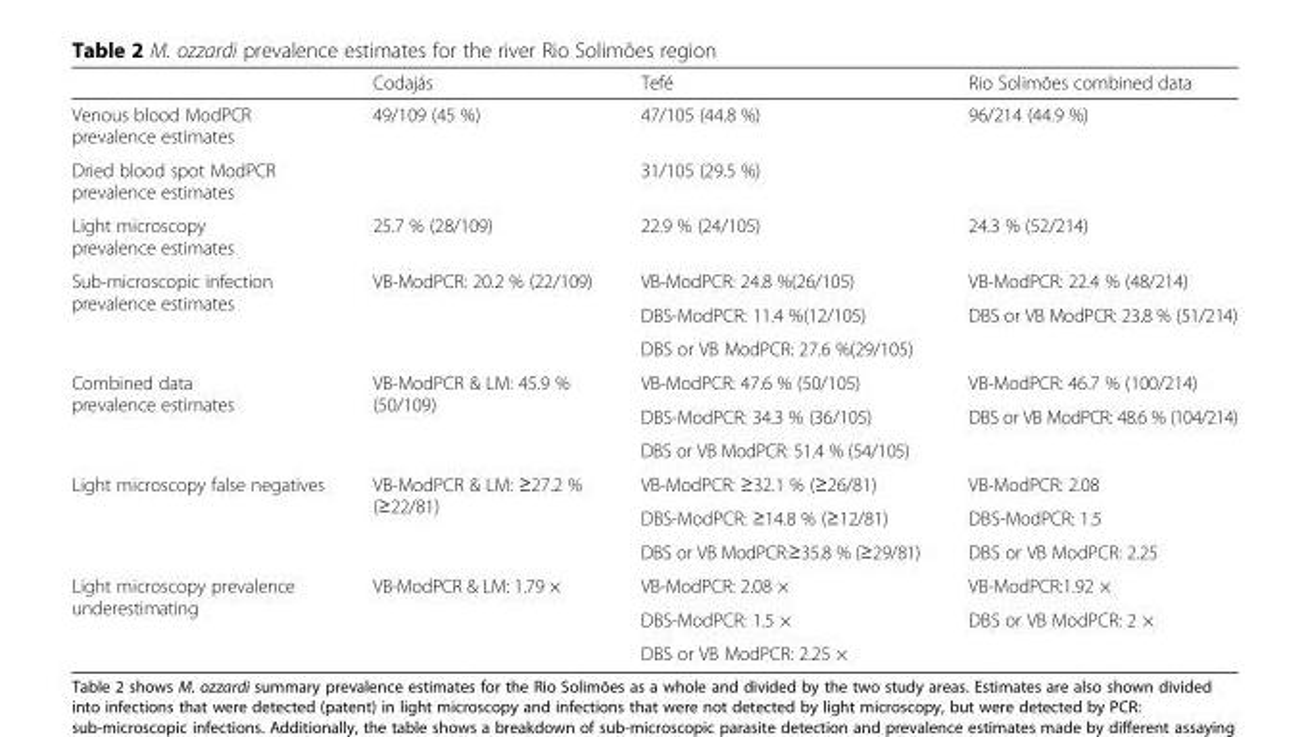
<table><thead><tr><td></td><td>Codajás</td><td>Tefé</td><td>Rio Solimões combined data</td></tr></thead><tbody><tr><td>Venous blood ModPCR prevalence estimates</td><td>49/109 (45 %)</td><td>47/105 (44.8 %)</td><td>96/214 (44.9 %)</td></tr><tr><td>Dried blood spot ModPCR prevalence estimates</td><td></td><td>31/105 (29.5 %)</td><td></td></tr><tr><td>Light microscopy prevalence estimates</td><td>25.7 % (28/109)</td><td>22.9 % (24/105)</td><td>24.3 % (52/214)</td></tr><tr><td rowspan="3">Sub-microscopic infection prevalence estimates</td><td rowspan="3">VB-ModPCR: 20.2 % (22/109)</td><td>VB-ModPCR: 24.8 %(26/105)</td><td>VB-ModPCR: 22.4 % (48/214)</td></tr><tr><td>DBS-ModPCR: 11.4 %(12/105)</td><td rowspan="2">DBS or VB ModPCR: 23.8 % (51/214)</td></tr><tr><td>DBS or VB ModPCR: 27.6 %(29/105)</td></tr><tr><td rowspan="3">Combined data prevalence estimates</td><td rowspan="3">VB-ModPCR &amp; LM: 45.9 % (50/109)</td><td>VB-ModPCR: 47.6 % (50/105)</td><td>VB-ModPCR: 46.7 % (100/214)</td></tr><tr><td>DBS-ModPCR: 34.3 % (36/105)</td><td rowspan="2">DBS or VB ModPCR: 48.6 % (104/214)</td></tr><tr><td>DBS or VB ModPCR: 51.4 % (54/105)</td></tr><tr><td rowspan="3">Light microscopy false negatives</td><td rowspan="3">VB-ModPCR &amp; LM: ≥27.2 % (≥22/81)</td><td>VB-ModPCR: ≥32.1 % (≥26/81)</td><td>VB-ModPCR: 2.08</td></tr><tr><td>DBS-ModPCR: ≥14.8 % (≥12/81)</td><td>DBS-ModPCR: 1.5</td></tr><tr><td>DBS or VB ModPCR:≥35.8 % (≥29/81)</td><td>DBS or VB ModPCR: 2.25</td></tr><tr><td rowspan="3">Light microscopy prevalence underestimating</td><td rowspan="3">VB-ModPCR &amp; LM: 1.79 ×</td><td>VB-ModPCR: 2.08 ×</td><td>VB-ModPCR:1.92 ×</td></tr><tr><td>DBS-ModPCR: 1.5 ×</td><td rowspan="2">DBS or VB ModPCR: 2 ×</td></tr><tr><td>DBS or VB ModPCR: 2.25 ×</td></tr></tbody></table>